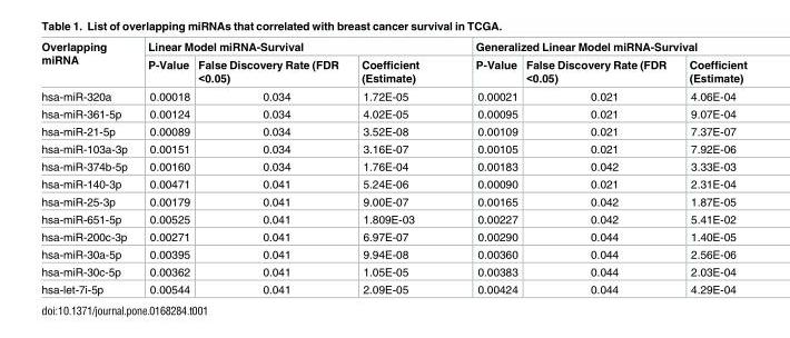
<table><thead><tr><td rowspan="2">Overlapping miRNA</td><td colspan="3">Linear Model miRNA-Survival</td><td colspan="3">Generalized Linear Model miRNA-Survival</td></tr><tr><td>P-Value</td><td>False Discovery Rate (FDR &lt;0.05)</td><td>Coefficient (Estimate)</td><td>P-Value</td><td>False Discovery Rate (FDR &lt;0.05)</td><td>Coefficient (Estimate)</td></tr></thead><tbody><tr><td>hsa-miR-320a</td><td>0.00018</td><td>0.034</td><td>1.72E-05</td><td>0.00021</td><td>0.021</td><td>4.06E-04</td></tr><tr><td>hsa-miR-361-5p</td><td>0.00124</td><td>0.034</td><td>4.02E-05</td><td>0.00095</td><td>0.021</td><td>9.07E-04</td></tr><tr><td>hsa-miR-21-5p</td><td>0.00089</td><td>0.034</td><td>3.52E-08</td><td>0.00109</td><td>0.021</td><td>7.37E-07</td></tr><tr><td>hsa-miR-103a-3p</td><td>0.00151</td><td>0.034</td><td>3.16E-07</td><td>0.00105</td><td>0.021</td><td>7.92E-06</td></tr><tr><td>hsa-miR-374b-5p</td><td>0.00160</td><td>0.034</td><td>1.76E-04</td><td>0.00183</td><td>0.042</td><td>3.33E-03</td></tr><tr><td>hsa-miR-140-3p</td><td>0.00471</td><td>0.041</td><td>5.24E-06</td><td>0.00090</td><td>0.021</td><td>2.31E-04</td></tr><tr><td>hsa-miR-25-3p</td><td>0.00179</td><td>0.041</td><td>9.00E-07</td><td>0.00165</td><td>0.042</td><td>1.87E-05</td></tr><tr><td>hsa-miR-651-5p</td><td>0.00525</td><td>0.041</td><td>1.809E-03</td><td>0.00227</td><td>0.042</td><td>5.41E-02</td></tr><tr><td>hsa-miR-200c-3p</td><td>0.00271</td><td>0.041</td><td>6.97E-07</td><td>0.00290</td><td>0.044</td><td>1.40E-05</td></tr><tr><td>hsa-miR-30a-5p</td><td>0.00395</td><td>0.041</td><td>9.94E-08</td><td>0.00360</td><td>0.044</td><td>2.56E-06</td></tr><tr><td>hsa-miR-30c-5p</td><td>0.00362</td><td>0.041</td><td>1.05E-05</td><td>0.00383</td><td>0.044</td><td>2.03E-04</td></tr><tr><td>hsa-let-7i-5p</td><td>0.00544</td><td>0.041</td><td>2.09E-05</td><td>0.00424</td><td>0.044</td><td>4.29E-04</td></tr></tbody></table>